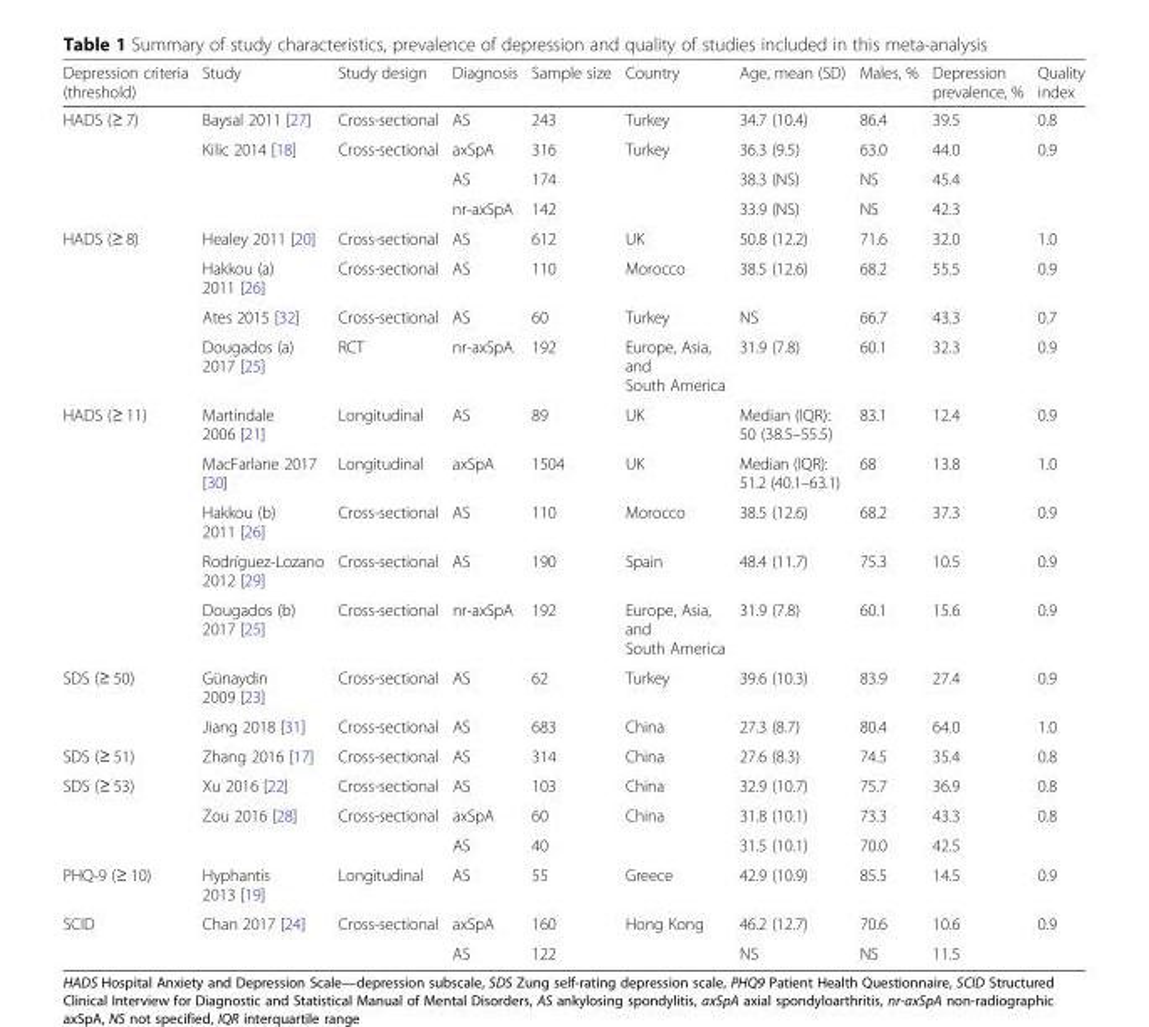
<table><thead><tr><td>Depression criteria (threshold)</td><td>Study</td><td>Study design</td><td>Diagnosis</td><td>Sample size</td><td>Country</td><td>Age, mean (SD)</td><td>Males, %</td><td>Depression prevalence, %</td><td>Quality index</td></tr></thead><tbody><tr><td rowspan="4">HADS (≥ 7)</td><td>Baysal 2011 [27]</td><td>Cross-sectional</td><td>AS</td><td>243</td><td>Turkey</td><td>34.7 (10.4)</td><td>86.4</td><td>39.5</td><td>0.8</td></tr><tr><td rowspan="3">Kilic 2014 [18]</td><td rowspan="3">Cross-sectional</td><td>axSpA</td><td>316</td><td rowspan="3">Turkey</td><td>36.3 (9.5)</td><td>63.0</td><td>44.0</td><td rowspan="3">0.9</td></tr><tr><td>AS</td><td>174</td><td>38.3 (NS)</td><td>NS</td><td>45.4</td></tr><tr><td>nr-axSpA</td><td>142</td><td>33.9 (NS)</td><td>NS</td><td>42.3</td></tr><tr><td rowspan="4">HADS (≥ 8)</td><td>Healey 2011 [20]</td><td>Cross-sectional</td><td>AS</td><td>612</td><td>UK</td><td>50.8 (12.2)</td><td>71.6</td><td>32.0</td><td>1.0</td></tr><tr><td>Hakkou (a) 2011 [26]</td><td>Cross-sectional</td><td>AS</td><td>110</td><td>Morocco</td><td>38.5 (12.6)</td><td>68.2</td><td>55.5</td><td>0.9</td></tr><tr><td>Ates 2015 [32]</td><td>Cross-sectional</td><td>AS</td><td>60</td><td>Turkey</td><td>NS</td><td>66.7</td><td>43.3</td><td>0.7</td></tr><tr><td>Dougados (a) 2017 [25]</td><td>RCT</td><td>nr-axSpA</td><td>192</td><td>Europe, Asia, and South America</td><td>31.9 (7.8)</td><td>60.1</td><td>32.3</td><td>0.9</td></tr><tr><td rowspan="5">HADS (≥ 11)</td><td>Martindale 2006 [21]</td><td>Longitudinal</td><td>AS</td><td>89</td><td>UK</td><td>Median (IQR): 50 (38.5–55.5)</td><td>83.1</td><td>12.4</td><td>0.9</td></tr><tr><td>MacFarlane 2017 [30]</td><td>Longitudinal</td><td>axSpA</td><td>1504</td><td>UK</td><td>Median (IQR): 51.2 (40.1–63.1)</td><td>68</td><td>13.8</td><td>1.0</td></tr><tr><td>Hakkou (b) 2011 [26]</td><td>Cross-sectional</td><td>AS</td><td>110</td><td>Morocco</td><td>38.5 (12.6)</td><td>68.2</td><td>37.3</td><td>0.9</td></tr><tr><td>Rodríguez-Lozano 2012 [29]</td><td>Cross-sectional</td><td>AS</td><td>190</td><td>Spain</td><td>48.4 (11.7)</td><td>75.3</td><td>10.5</td><td>0.9</td></tr><tr><td>Dougados (b) 2017 [25]</td><td>Cross-sectional</td><td>nr-axSpA</td><td>192</td><td>Europe, Asia, and South America</td><td>31.9 (7.8)</td><td>60.1</td><td>15.6</td><td>0.9</td></tr><tr><td rowspan="2">SDS (≥ 50)</td><td>Günaydin 2009 [23]</td><td>Cross-sectional</td><td>AS</td><td>62</td><td>Turkey</td><td>39.6 (10.3)</td><td>83.9</td><td>27.4</td><td>0.9</td></tr><tr><td>Jiang 2018 [31]</td><td>Cross-sectional</td><td>AS</td><td>683</td><td>China</td><td>27.3 (8.7)</td><td>80.4</td><td>64.0</td><td>1.0</td></tr><tr><td>SDS (≥ 51)</td><td>Zhang 2016 [17]</td><td>Cross-sectional</td><td>AS</td><td>314</td><td>China</td><td>27.6 (8.3)</td><td>74.5</td><td>35.4</td><td>0.8</td></tr><tr><td rowspan="3">SDS (≥ 53)</td><td>Xu 2016 [22]</td><td>Cross-sectional</td><td>AS</td><td>103</td><td>China</td><td>32.9 (10.7)</td><td>75.7</td><td>36.9</td><td>0.8</td></tr><tr><td rowspan="2">Zou 2016 [28]</td><td rowspan="2">Cross-sectional</td><td>axSpA</td><td>60</td><td rowspan="2">China</td><td>31.8 (10.1)</td><td>73.3</td><td>43.3</td><td rowspan="2">0.8</td></tr><tr><td>AS</td><td>40</td><td>31.5 (10.1)</td><td>70.0</td><td>42.5</td></tr><tr><td>PHQ-9 (≥ 10)</td><td>Hyphantis 2013 [19]</td><td>Longitudinal</td><td>AS</td><td>55</td><td>Greece</td><td>42.9 (10.9)</td><td>85.5</td><td>14.5</td><td>0.9</td></tr><tr><td rowspan="2">SCID</td><td rowspan="2">Chan 2017 [24]</td><td rowspan="2">Cross-sectional</td><td>axSpA</td><td>160</td><td rowspan="2">Hong Kong</td><td>46.2 (12.7)</td><td>70.6</td><td>10.6</td><td rowspan="2">0.9</td></tr><tr><td>AS</td><td>122</td><td>NS</td><td>NS</td><td>11.5</td></tr></tbody></table>